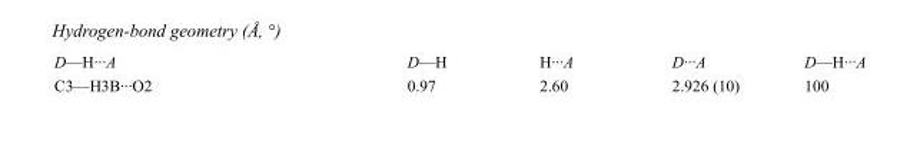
<table><tbody><tr><td>D—H···A</td><td>D—H</td><td>H···A</td><td>D···A</td><td>D—H···A</td></tr><tr><td>C3—H3B···O2</td><td>0.97</td><td>2.60</td><td>2.926 (10)</td><td>100</td></tr></tbody></table>